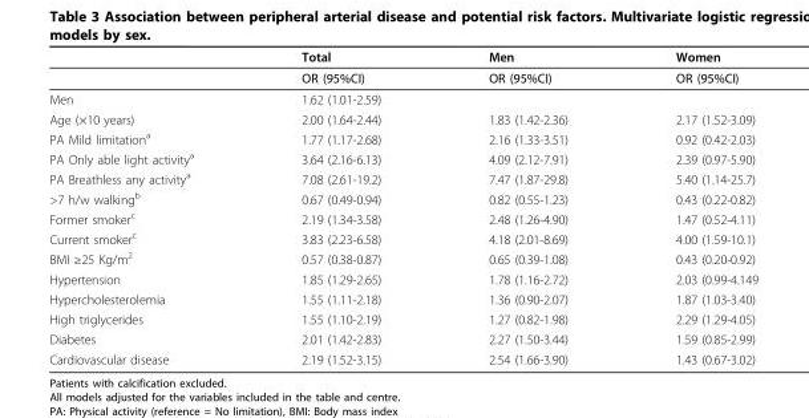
<table><thead><tr><td></td><td>Total</td><td>Men</td><td>Women</td></tr></thead><tbody><tr><td></td><td>OR (95%CI)</td><td>OR (95%CI)</td><td>OR (95%CI)</td></tr><tr><td>Men</td><td>1.62 (1.01-2.59)</td><td></td><td></td></tr><tr><td>Age (×10 years)</td><td>2.00 (1.64-2.44)</td><td>1.83 (1.42-2.36)</td><td>2.17 (1.52-3.09)</td></tr><tr><td>PA Mild limitation<sup>a</sup></td><td>1.77 (1.17-2.68)</td><td>2.16 (1.33-3.51)</td><td>0.92 (0.42-2.03)</td></tr><tr><td>PA Only able light activity<sup>a</sup></td><td>3.64 (2.16-6.13)</td><td>4.09 (2.12-7.91)</td><td>2.39 (0.97-5.90)</td></tr><tr><td>PA Breathless any activity<sup>a</sup></td><td>7.08 (2.61-19.2)</td><td>7.47 (1.87-29.8)</td><td>5.40 (1.14-25.7)</td></tr><tr><td>&gt;7 h/w walking<sup>b</sup></td><td>0.67 (0.49-0.94)</td><td>0.82 (0.55-1.23)</td><td>0.43 (0.22-0.82)</td></tr><tr><td>Former smoker<sup>c</sup></td><td>2.19 (1.34-3.58)</td><td>2.48 (1.26-4.90)</td><td>1.47 (0.52-4.11)</td></tr><tr><td>Current smoker<sup>c</sup></td><td>3.83 (2.23-6.58)</td><td>4.18 (2.01-8.69)</td><td>4.00 (1.59-10.1)</td></tr><tr><td>BMI ≥25 Kg/m<sup>2</sup></td><td>0.57 (0.38-0.87)</td><td>0.65 (0.39-1.08)</td><td>0.43 (0.20-0.92)</td></tr><tr><td>Hypertension</td><td>1.85 (1.29-2.65)</td><td>1.78 (1.16-2.72)</td><td>2.03 (0.99-4.149</td></tr><tr><td>Hypercholesterolemia</td><td>1.55 (1.11-2.18)</td><td>1.36 (0.90-2.07)</td><td>1.87 (1.03-3.40)</td></tr><tr><td>High triglycerides</td><td>1.55 (1.10-2.19)</td><td>1.27 (0.82-1.98)</td><td>2.29 (1.29-4.05)</td></tr><tr><td>Diabetes</td><td>2.01 (1.42-2.83)</td><td>2.27 (1.50-3.44)</td><td>1.59 (0.85-2.99)</td></tr><tr><td>Cardiovascular disease</td><td>2.19 (1.52-3.15)</td><td>2.54 (1.66-3.90)</td><td>1.43 (0.67-3.02)</td></tr></tbody></table>